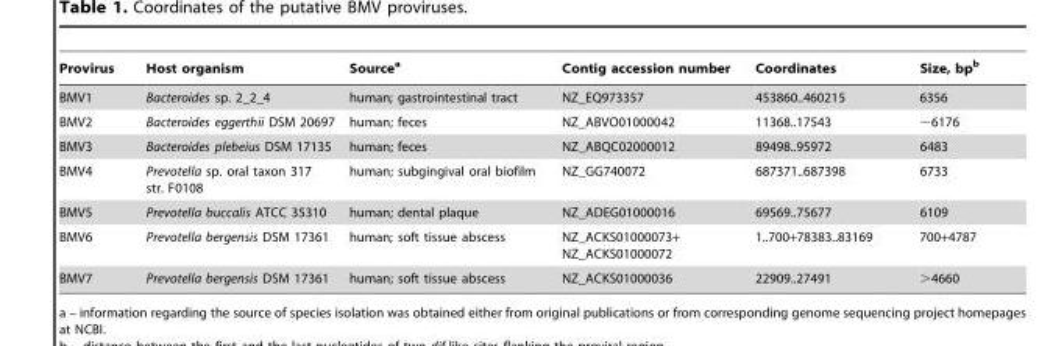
<table><thead><tr><td>Provirus</td><td>Host organism</td><td>Source<sup>a</sup></td><td>Contig accession number</td><td>Coordinates</td><td>Size, bp<sup>b</sup></td></tr></thead><tbody><tr><td>BMV1</td><td>Bacteroides sp. 2_2_4</td><td>human; gastrointestinal tract</td><td>NZ_EQ973357</td><td>453860..460215</td><td>6356</td></tr><tr><td>BMV2</td><td>Bacteroides eggerthii DSM 20697</td><td>human; feces</td><td>NZ_ABVO01000042</td><td>11368..17543</td><td>∼6176</td></tr><tr><td>BMV3</td><td>Bacteroides plebeius DSM 17135</td><td>human; feces</td><td>NZ_ABQC02000012</td><td>89498..95972</td><td>6483</td></tr><tr><td>BMV4</td><td>Prevotella sp. oral taxon 317 str. F0108</td><td>human; subgingival oral biofilm</td><td>NZ_GG740072</td><td>687371..687398</td><td>6733</td></tr><tr><td>BMV5</td><td>Prevotella buccalis ATCC 35310</td><td>human; dental plaque</td><td>NZ_ADEG01000016</td><td>69569..75677</td><td>6109</td></tr><tr><td>BMV6</td><td>Prevotella bergensis DSM 17361</td><td>human; soft tissue abscess</td><td>NZ_ACKS01000073+ NZ_ACKS01000072</td><td>1..700+78383..83169</td><td>700+4787</td></tr><tr><td>BMV7</td><td>Prevotella bergensis DSM 17361</td><td>human; soft tissue abscess</td><td>NZ_ACKS01000036</td><td>22909..27491</td><td>&gt;4660</td></tr></tbody></table>